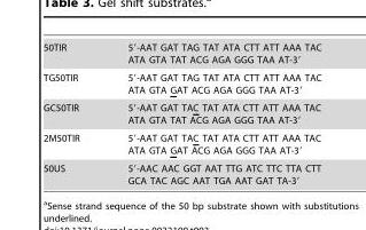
<table><tbody><tr><td>50TIR</td><td>5′-AAT GAT TAG TAT ATA CTT ATT AAA TAC ATA GTA TAT ACG AGA GGG TAA AT-3′</td></tr><tr><td>TG50TIR</td><td>5′-AAT GAT TAG TAT ATA CTT ATT AAA TAC ATA GTA GAT ACG AGA GGG TAA AT-3′</td></tr><tr><td>GC50TIR</td><td>5′-AAT GAT TAC TAT ATA CTT ATT AAA TAC ATA GTA TAT ACG AGA GGG TAA AT-3′</td></tr><tr><td>2M50TIR</td><td>5′-AAT GAT TAC TAT ATA CTT ATT AAA TAC ATA GTA GAT ACG AGA GGG TAA AT-3′</td></tr><tr><td>50US</td><td>5′-AAC AAC GGT AAT TTG ATC TTC TTA CTT GCA TAC AGC AAT TGA AAT GAT TA-3′</td></tr></tbody></table>